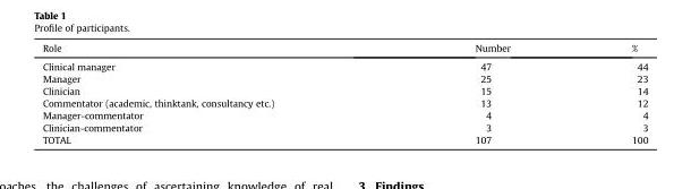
<table><thead><tr><td>Role</td><td>Number</td><td>%</td></tr></thead><tbody><tr><td>Clinical manager</td><td>47</td><td>44</td></tr><tr><td>Manager</td><td>25</td><td>23</td></tr><tr><td>Clinician</td><td>15</td><td>14</td></tr><tr><td>Commentator (academic, thinktank, consultancy etc.)</td><td>13</td><td>12</td></tr><tr><td>Manager-commentator</td><td>4</td><td>4</td></tr><tr><td>Clinician-commentator</td><td>3</td><td>3</td></tr><tr><td>TOTAL</td><td>107</td><td>100</td></tr></tbody></table>